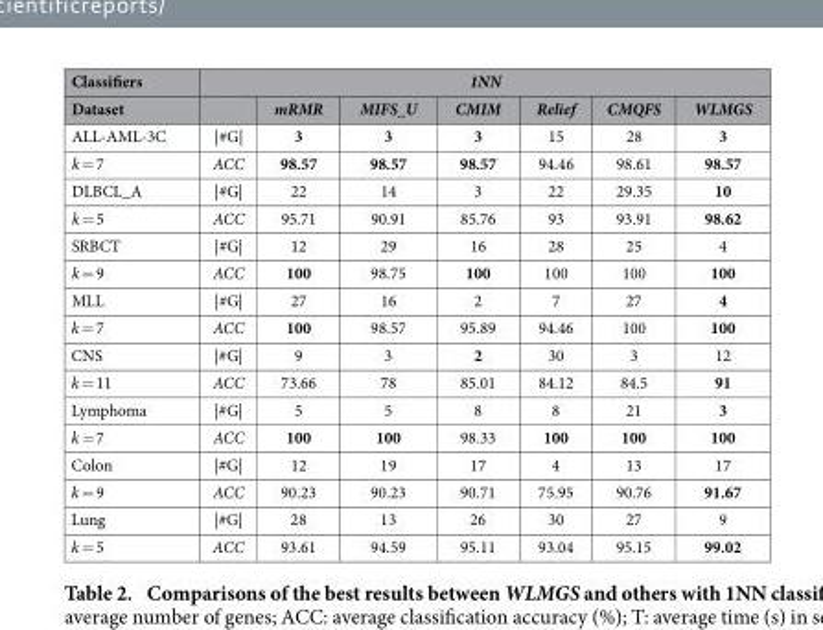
<table><thead><tr><td rowspan="2">Classifiers Dataset</td><td colspan="7">1NN</td></tr><tr><td></td><td>mRMR</td><td>MIFS_U</td><td>CMIM</td><td>Relief</td><td>CMQFS</td><td>WLMGS</td></tr></thead><tbody><tr><td>ALL-AML-3C</td><td>|#G|</td><td>3</td><td>3</td><td>3</td><td>15</td><td>28</td><td>3</td></tr><tr><td>k = 7</td><td>ACC</td><td>98.57</td><td>98.57</td><td>98.57</td><td>94.46</td><td>98.61</td><td>98.57</td></tr><tr><td>DLBCL_A</td><td>|#G|</td><td>22</td><td>14</td><td>3</td><td>22</td><td>29.35</td><td>10</td></tr><tr><td>k = 5</td><td>ACC</td><td>95.71</td><td>90.91</td><td>85.76</td><td>93</td><td>93.91</td><td>98.62</td></tr><tr><td>SRBCT</td><td>|#G|</td><td>12</td><td>29</td><td>16</td><td>28</td><td>25</td><td>4</td></tr><tr><td>k = 9</td><td>ACC</td><td>100</td><td>98.75</td><td>100</td><td>100</td><td>100</td><td>100</td></tr><tr><td>MLL</td><td>|#G|</td><td>27</td><td>16</td><td>2</td><td>7</td><td>27</td><td>4</td></tr><tr><td>k = 7</td><td>ACC</td><td>100</td><td>98.57</td><td>95.89</td><td>94.46</td><td>100</td><td>100</td></tr><tr><td>CNS</td><td>|#G|</td><td>9</td><td>3</td><td>2</td><td>30</td><td>3</td><td>12</td></tr><tr><td>k = 11</td><td>ACC</td><td>73.66</td><td>78</td><td>85.01</td><td>84.12</td><td>84.5</td><td>91</td></tr><tr><td>Lymphoma</td><td>|#G|</td><td>5</td><td>5</td><td>8</td><td>8</td><td>21</td><td>3</td></tr><tr><td>k = 7</td><td>ACC</td><td>100</td><td>100</td><td>98.33</td><td>100</td><td>100</td><td>100</td></tr><tr><td>Colon</td><td>|#G|</td><td>12</td><td>19</td><td>17</td><td>4</td><td>13</td><td>17</td></tr><tr><td>k = 9</td><td>ACC</td><td>90.23</td><td>90.23</td><td>90.71</td><td>75.95</td><td>90.76</td><td>91.67</td></tr><tr><td>Lung</td><td>|#G|</td><td>28</td><td>13</td><td>26</td><td>30</td><td>27</td><td>9</td></tr><tr><td>k = 5</td><td>ACC</td><td>93.61</td><td>94.59</td><td>95.11</td><td>93.04</td><td>95.15</td><td>99.02</td></tr></tbody></table>